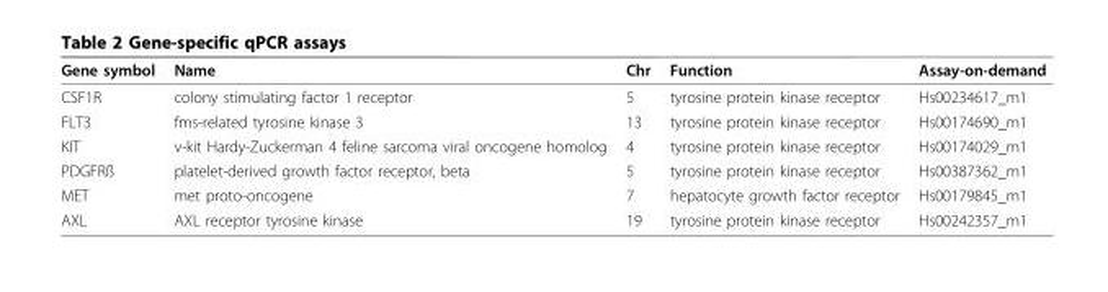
<table><thead><tr><td>Gene symbol</td><td>Name</td><td>Chr</td><td>Function</td><td>Assay-on-demand</td></tr></thead><tbody><tr><td>CSF1R</td><td>colony stimulating factor 1 receptor</td><td>5</td><td>tyrosine protein kinase receptor</td><td>Hs00234617_m1</td></tr><tr><td>FLT3</td><td>fms-related tyrosine kinase 3</td><td>13</td><td>tyrosine protein kinase receptor</td><td>Hs00174690_m1</td></tr><tr><td>KIT</td><td>v-kit Hardy-Zuckerman 4 feline sarcoma viral oncogene homolog</td><td>4</td><td>tyrosine protein kinase receptor</td><td>Hs00174029_m1</td></tr><tr><td>PDGFRß</td><td>platelet-derived growth factor receptor, beta</td><td>5</td><td>tyrosine protein kinase receptor</td><td>Hs00387362_m1</td></tr><tr><td>MET</td><td>met proto-oncogene</td><td>7</td><td>hepatocyte growth factor receptor</td><td>Hs00179845_m1</td></tr><tr><td>AXL</td><td>AXL receptor tyrosine kinase</td><td>19</td><td>tyrosine protein kinase receptor</td><td>Hs00242357_m1</td></tr></tbody></table>